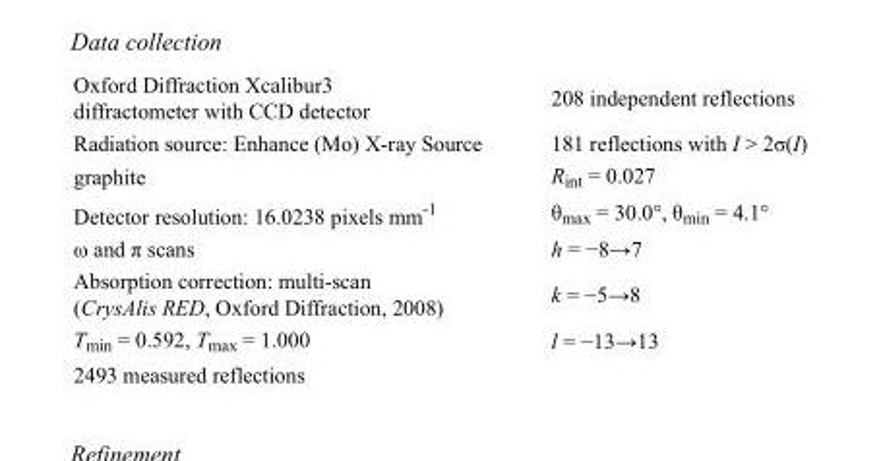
<table><tbody><tr><td>Oxford Diffraction Xcalibur3 diffractometer with CCD detector</td><td>208 independent reflections</td></tr><tr><td>Radiation source: Enhance (Mo) X-ray Source</td><td>181 reflections with I &gt; 2σ(I)</td></tr><tr><td>graphite</td><td>R<sub>int</sub> = 0.027</td></tr><tr><td>Detector resolution: 16.0238 pixels mm<sup>-1</sup></td><td>θ<sub>max</sub> = 30.0°, θ<sub>min</sub> = 4.1°</td></tr><tr><td>ω and π scans</td><td>h = −8→7</td></tr><tr><td>Absorption correction: multi-scan (CrysAlis RED, Oxford Diffraction, 2008)</td><td>k = −5→8</td></tr><tr><td>T<sub>min</sub> = 0.592, T<sub>max</sub> = 1.000</td><td>l = −13→13</td></tr><tr><td>2493 measured reflections</td><td></td></tr></tbody></table>